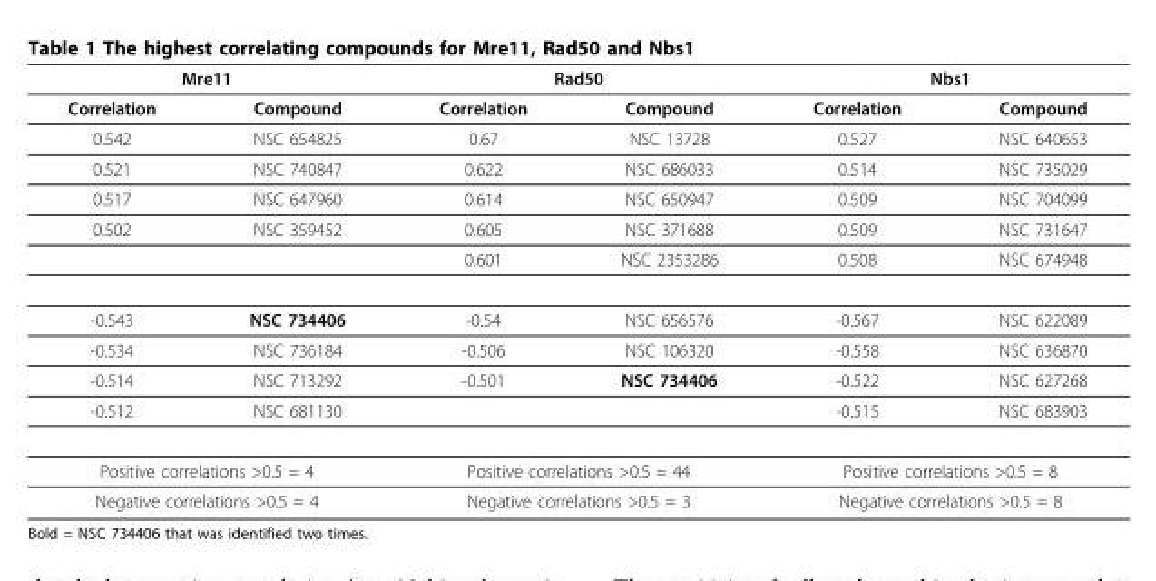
<table><thead><tr><td colspan="2">Mre11</td><td colspan="2">Rad50</td><td colspan="2">Nbs1</td></tr><tr><td>Correlation</td><td>Compound</td><td>Correlation</td><td>Compound</td><td>Correlation</td><td>Compound</td></tr></thead><tbody><tr><td>0.542</td><td>NSC 654825</td><td>0.67</td><td>NSC 13728</td><td>0.527</td><td>NSC 640653</td></tr><tr><td>0.521</td><td>NSC 740847</td><td>0.622</td><td>NSC 686033</td><td>0.514</td><td>NSC 735029</td></tr><tr><td>0.517</td><td>NSC 647960</td><td>0.614</td><td>NSC 650947</td><td>0.509</td><td>NSC 704099</td></tr><tr><td rowspan="2">0.502</td><td>NSC 359452</td><td>0.605</td><td>NSC 371688</td><td>0.509</td><td>NSC 731647</td></tr><tr><td></td><td>0.601</td><td>NSC 2353286</td><td>0.508</td><td>NSC 674948</td></tr><tr><td>-0.543</td><td>NSC 734406</td><td>-0.54</td><td>NSC 656576</td><td>-0.567</td><td>NSC 622089</td></tr><tr><td>-0.534</td><td>NSC 736184</td><td>-0.506</td><td>NSC 106320</td><td>-0.558</td><td>NSC 636870</td></tr><tr><td>-0.514</td><td>NSC 713292</td><td>-0.501</td><td>NSC 734406</td><td>-0.522</td><td>NSC 627268</td></tr><tr><td>-0.512</td><td>NSC 681130</td><td></td><td></td><td>-0.515</td><td>NSC 683903</td></tr><tr><td colspan="2">Positive correlations &gt;0.5 = 4</td><td colspan="2">Positive correlations &gt;0.5 = 44</td><td colspan="2">Positive correlations &gt;0.5 = 8</td></tr><tr><td colspan="2">Negative correlations &gt;0.5 = 4</td><td colspan="2">Negative correlations &gt;0.5 = 3</td><td colspan="2">Negative correlations &gt;0.5 = 8</td></tr></tbody></table>